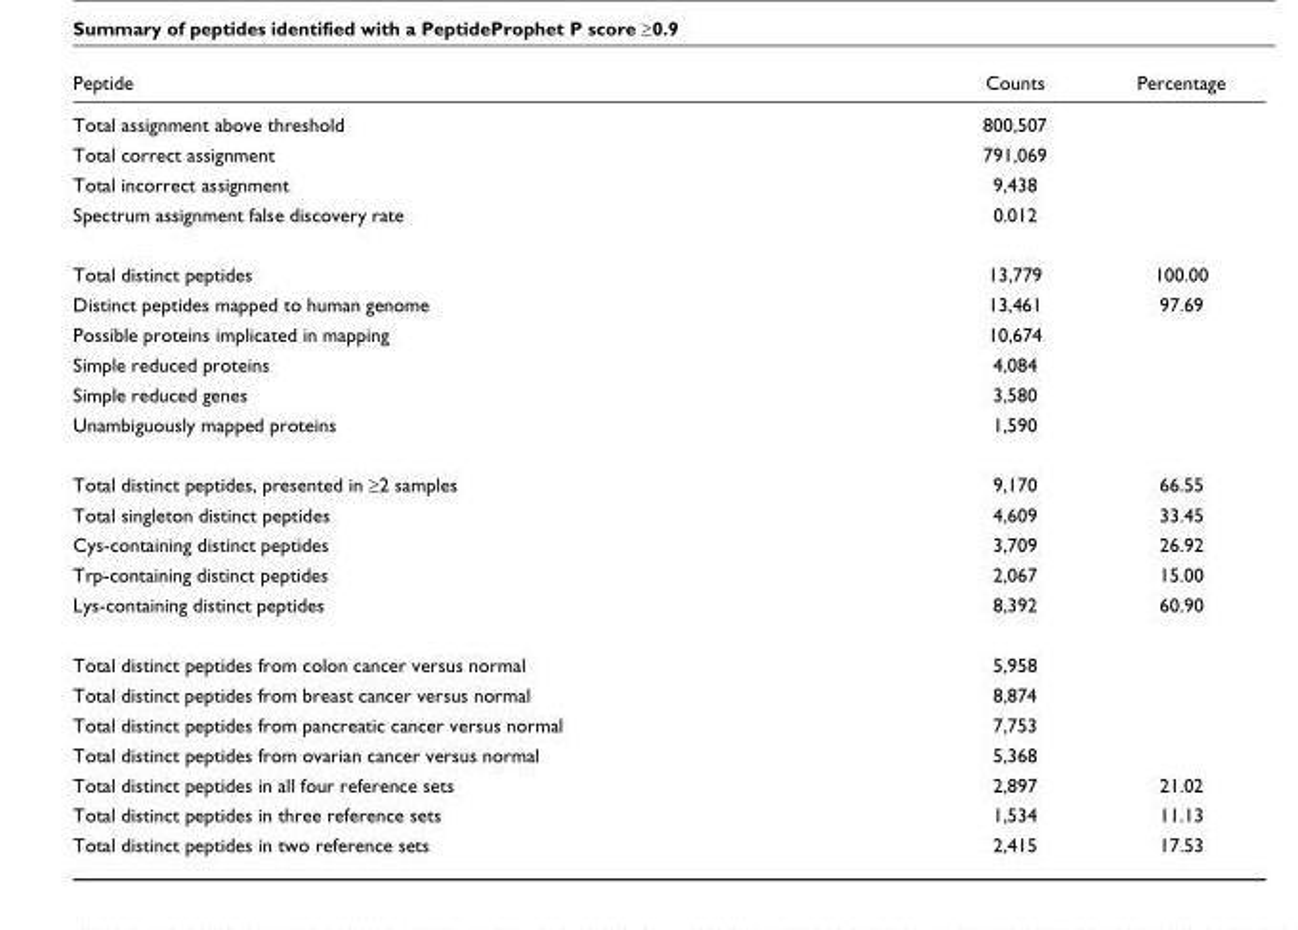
<table><thead><tr><td>Peptide</td><td>Counts</td><td>Percentage</td></tr></thead><tbody><tr><td>Total assignment above threshold</td><td>800,507</td><td></td></tr><tr><td>Total correct assignment</td><td>791,069</td><td></td></tr><tr><td>Total incorrect assignment</td><td>9,438</td><td></td></tr><tr><td>Spectrum assignment false discovery rate</td><td>0.012</td><td></td></tr><tr><td>Total distinct peptides</td><td>13,779</td><td>100.00</td></tr><tr><td>Distinct peptides mapped to human genome</td><td>13,461</td><td>97.69</td></tr><tr><td>Possible proteins implicated in mapping</td><td>10,674</td><td></td></tr><tr><td>Simple reduced proteins</td><td>4,084</td><td></td></tr><tr><td>Simple reduced genes</td><td>3,580</td><td></td></tr><tr><td>Unambiguously mapped proteins</td><td>1,590</td><td></td></tr><tr><td>Total distinct peptides, presented in ≥2 samples</td><td>9,170</td><td>66.55</td></tr><tr><td>Total singleton distinct peptides</td><td>4,609</td><td>33.45</td></tr><tr><td>Cys-containing distinct peptides</td><td>3,709</td><td>26.92</td></tr><tr><td>Trp-containing distinct peptides</td><td>2,067</td><td>15.00</td></tr><tr><td>Lys-containing distinct peptides</td><td>8,392</td><td>60.90</td></tr><tr><td>Total distinct peptides from colon cancer versus normal</td><td>5,958</td><td></td></tr><tr><td>Total distinct peptides from breast cancer versus normal</td><td>8,874</td><td></td></tr><tr><td>Total distinct peptides from pancreatic cancer versus normal</td><td>7,753</td><td></td></tr><tr><td>Total distinct peptides from ovarian cancer versus normal</td><td>5,368</td><td></td></tr><tr><td>Total distinct peptides in all four reference sets</td><td>2,897</td><td>21.02</td></tr><tr><td>Total distinct peptides in three reference sets</td><td>1,534</td><td>11.13</td></tr><tr><td>Total distinct peptides in two reference sets</td><td>2,415</td><td>17.53</td></tr></tbody></table>